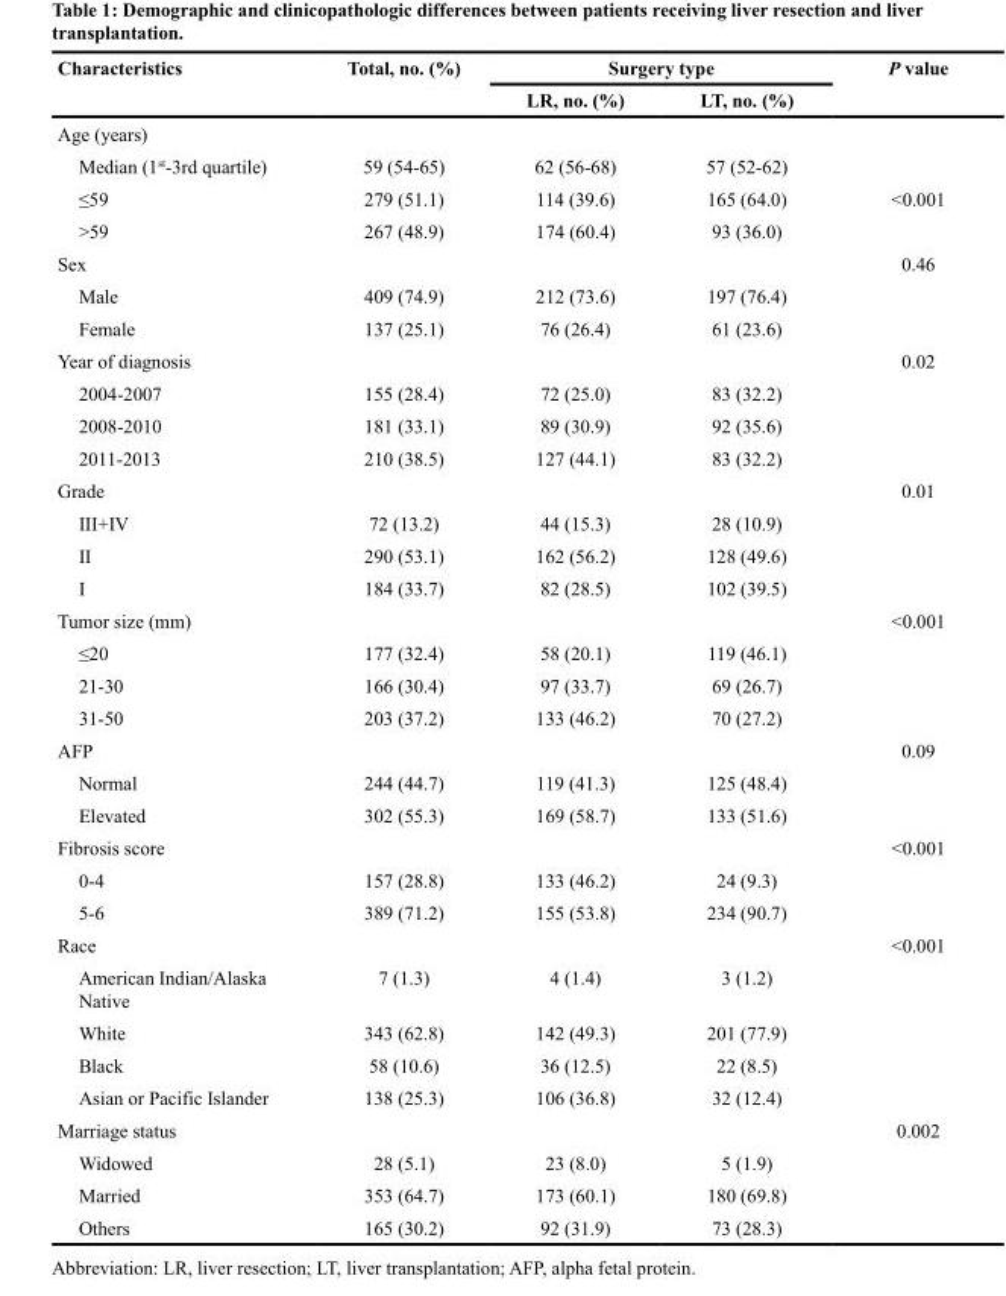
<table><thead><tr><td rowspan="2">Characteristics</td><td rowspan="2">Total, no. (%)</td><td colspan="2">Surgery type</td><td rowspan="2">P value</td></tr><tr><td>LR, no. (%)</td><td>LT, no. (%)</td></tr></thead><tbody><tr><td colspan="5">Age (years)</td></tr><tr><td>Median (1<sup>st</sup>-3rd quartile)</td><td>59 (54-65)</td><td>62 (56-68)</td><td>57 (52-62)</td><td></td></tr><tr><td>≤59</td><td>279 (51.1)</td><td>114 (39.6)</td><td>165 (64.0)</td><td>&lt;0.001</td></tr><tr><td>&gt;59</td><td>267 (48.9)</td><td>174 (60.4)</td><td>93 (36.0)</td><td></td></tr><tr><td>Sex</td><td></td><td></td><td></td><td>0.46</td></tr><tr><td>Male</td><td>409 (74.9)</td><td>212 (73.6)</td><td>197 (76.4)</td><td></td></tr><tr><td>Female</td><td>137 (25.1)</td><td>76 (26.4)</td><td>61 (23.6)</td><td></td></tr><tr><td>Year of diagnosis</td><td></td><td></td><td></td><td>0.02</td></tr><tr><td>2004-2007</td><td>155 (28.4)</td><td>72 (25.0)</td><td>83 (32.2)</td><td></td></tr><tr><td>2008-2010</td><td>181 (33.1)</td><td>89 (30.9)</td><td>92 (35.6)</td><td></td></tr><tr><td>2011-2013</td><td>210 (38.5)</td><td>127 (44.1)</td><td>83 (32.2)</td><td></td></tr><tr><td>Grade</td><td></td><td></td><td></td><td>0.01</td></tr><tr><td>III+IV</td><td>72 (13.2)</td><td>44 (15.3)</td><td>28 (10.9)</td><td></td></tr><tr><td>II</td><td>290 (53.1)</td><td>162 (56.2)</td><td>128 (49.6)</td><td></td></tr><tr><td>I</td><td>184 (33.7)</td><td>82 (28.5)</td><td>102 (39.5)</td><td></td></tr><tr><td>Tumor size (mm)</td><td></td><td></td><td></td><td>&lt;0.001</td></tr><tr><td>≤20</td><td>177 (32.4)</td><td>58 (20.1)</td><td>119 (46.1)</td><td></td></tr><tr><td>21-30</td><td>166 (30.4)</td><td>97 (33.7)</td><td>69 (26.7)</td><td></td></tr><tr><td>31-50</td><td>203 (37.2)</td><td>133 (46.2)</td><td>70 (27.2)</td><td></td></tr><tr><td>AFP</td><td></td><td></td><td></td><td>0.09</td></tr><tr><td>Normal</td><td>244 (44.7)</td><td>119 (41.3)</td><td>125 (48.4)</td><td></td></tr><tr><td>Elevated</td><td>302 (55.3)</td><td>169 (58.7)</td><td>133 (51.6)</td><td></td></tr><tr><td>Fibrosis score</td><td></td><td></td><td></td><td>&lt;0.001</td></tr><tr><td>0-4</td><td>157 (28.8)</td><td>133 (46.2)</td><td>24 (9.3)</td><td></td></tr><tr><td>5-6</td><td>389 (71.2)</td><td>155 (53.8)</td><td>234 (90.7)</td><td></td></tr><tr><td>Race</td><td></td><td></td><td></td><td>&lt;0.001</td></tr><tr><td>American Indian/Alaska Native</td><td>7 (1.3)</td><td>4 (1.4)</td><td>3 (1.2)</td><td></td></tr><tr><td>White</td><td>343 (62.8)</td><td>142 (49.3)</td><td>201 (77.9)</td><td></td></tr><tr><td>Black</td><td>58 (10.6)</td><td>36 (12.5)</td><td>22 (8.5)</td><td></td></tr><tr><td>Asian or Pacific Islander</td><td>138 (25.3)</td><td>106 (36.8)</td><td>32 (12.4)</td><td></td></tr><tr><td>Marriage status</td><td></td><td></td><td></td><td>0.002</td></tr><tr><td>Widowed</td><td>28 (5.1)</td><td>23 (8.0)</td><td>5 (1.9)</td><td></td></tr><tr><td>Married</td><td>353 (64.7)</td><td>173 (60.1)</td><td>180 (69.8)</td><td></td></tr><tr><td>Others</td><td>165 (30.2)</td><td>92 (31.9)</td><td>73 (28.3)</td><td></td></tr></tbody></table>